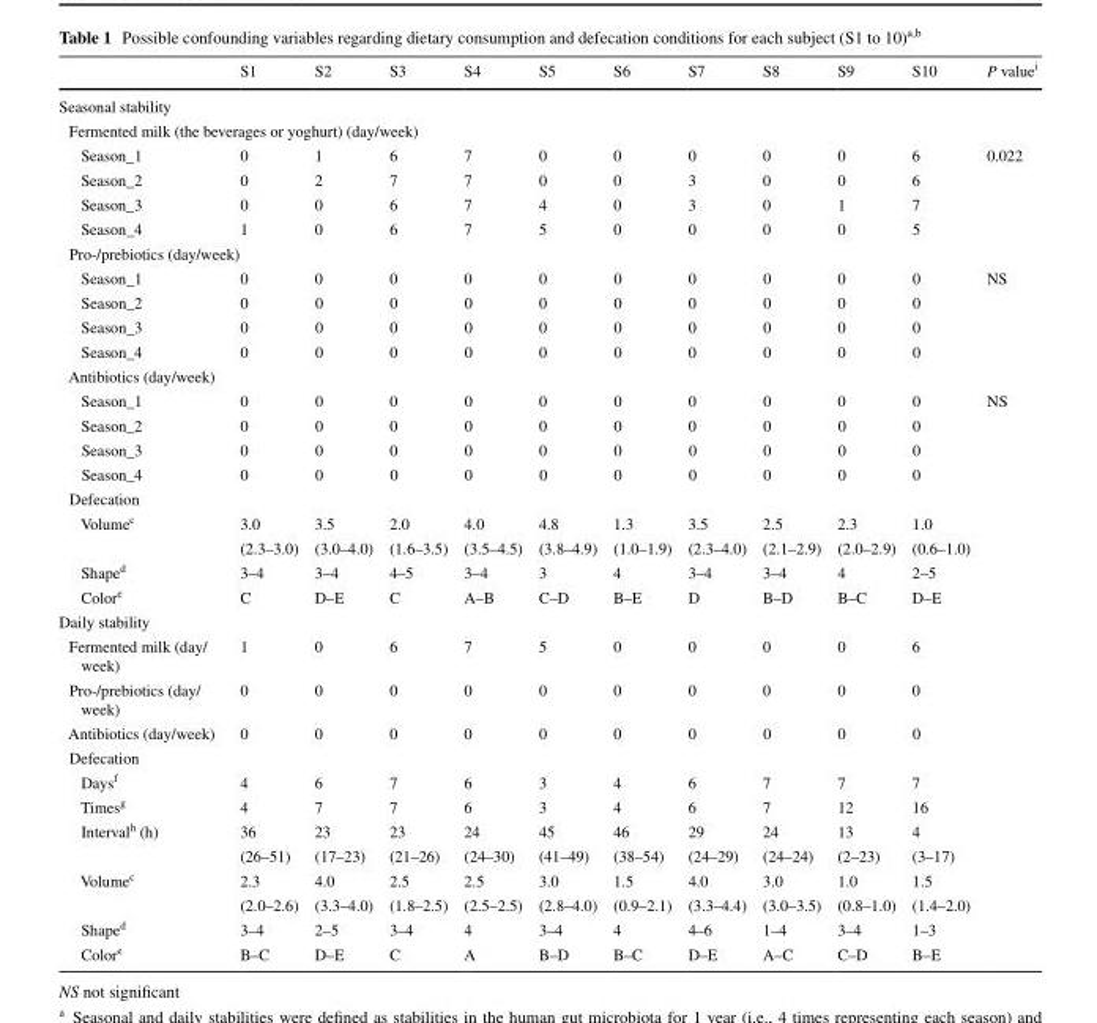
<table><thead><tr><td></td><td>S1</td><td>S2</td><td>S3</td><td>S4</td><td>S5</td><td>S6</td><td>S7</td><td>S8</td><td>S9</td><td>S10</td><td>P value<sup>i</sup></td></tr></thead><tbody><tr><td colspan="12">Seasonal stability</td></tr><tr><td colspan="12">Fermented milk (the beverages or yoghurt) (day/week)</td></tr><tr><td>Season_1</td><td>0</td><td>1</td><td>6</td><td>7</td><td>0</td><td>0</td><td>0</td><td>0</td><td>0</td><td>6</td><td>0.022</td></tr><tr><td>Season_2</td><td>0</td><td>2</td><td>7</td><td>7</td><td>0</td><td>0</td><td>3</td><td>0</td><td>0</td><td>6</td><td></td></tr><tr><td>Season_3</td><td>0</td><td>0</td><td>6</td><td>7</td><td>4</td><td>0</td><td>3</td><td>0</td><td>1</td><td>7</td><td></td></tr><tr><td>Season_4</td><td>1</td><td>0</td><td>6</td><td>7</td><td>5</td><td>0</td><td>0</td><td>0</td><td>0</td><td>5</td><td></td></tr><tr><td colspan="12">Pro-/prebiotics (day/week)</td></tr><tr><td>Season_1</td><td>0</td><td>0</td><td>0</td><td>0</td><td>0</td><td>0</td><td>0</td><td>0</td><td>0</td><td>0</td><td>NS</td></tr><tr><td>Season_2</td><td>0</td><td>0</td><td>0</td><td>0</td><td>0</td><td>0</td><td>0</td><td>0</td><td>0</td><td>0</td><td></td></tr><tr><td>Season_3</td><td>0</td><td>0</td><td>0</td><td>0</td><td>0</td><td>0</td><td>0</td><td>0</td><td>0</td><td>0</td><td></td></tr><tr><td>Season_4</td><td>0</td><td>0</td><td>0</td><td>0</td><td>0</td><td>0</td><td>0</td><td>0</td><td>0</td><td>0</td><td></td></tr><tr><td colspan="12">Antibiotics (day/week)</td></tr><tr><td>Season_1</td><td>0</td><td>0</td><td>0</td><td>0</td><td>0</td><td>0</td><td>0</td><td>0</td><td>0</td><td>0</td><td>NS</td></tr><tr><td>Season_2</td><td>0</td><td>0</td><td>0</td><td>0</td><td>0</td><td>0</td><td>0</td><td>0</td><td>0</td><td>0</td><td></td></tr><tr><td>Season_3</td><td>0</td><td>0</td><td>0</td><td>0</td><td>0</td><td>0</td><td>0</td><td>0</td><td>0</td><td>0</td><td></td></tr><tr><td>Season_4</td><td>0</td><td>0</td><td>0</td><td>0</td><td>0</td><td>0</td><td>0</td><td>0</td><td>0</td><td>0</td><td></td></tr><tr><td colspan="12">Defecation</td></tr><tr><td rowspan="2">Volume<sup>c</sup></td><td>3.0</td><td>3.5</td><td>2.0</td><td>4.0</td><td>4.8</td><td>1.3</td><td>3.5</td><td>2.5</td><td>2.3</td><td>1.0</td><td></td></tr><tr><td>(2.3–3.0)</td><td>(3.0–4.0)</td><td>(1.6–3.5)</td><td>(3.5–4.5)</td><td>(3.8–4.9)</td><td>(1.0–1.9)</td><td>(2.3–4.0)</td><td>(2.1–2.9)</td><td>(2.0–2.9)</td><td>(0.6–1.0)</td><td></td></tr><tr><td>Shape<sup>d</sup></td><td>3–4</td><td>3–4</td><td>4–5</td><td>3–4</td><td>3</td><td>4</td><td>3–4</td><td>3–4</td><td>4</td><td>2–5</td><td></td></tr><tr><td>Color<sup>e</sup></td><td>C</td><td>D–E</td><td>C</td><td>A–B</td><td>C–D</td><td>B–E</td><td>D</td><td>B–D</td><td>B–C</td><td>D–E</td><td></td></tr><tr><td colspan="12">Daily stability</td></tr><tr><td>Fermented milk (day/ week)</td><td>1</td><td>0</td><td>6</td><td>7</td><td>5</td><td>0</td><td>0</td><td>0</td><td>0</td><td>6</td><td></td></tr><tr><td>Pro-/prebiotics (day/ week)</td><td>0</td><td>0</td><td>0</td><td>0</td><td>0</td><td>0</td><td>0</td><td>0</td><td>0</td><td>0</td><td></td></tr><tr><td>Antibiotics (day/week)</td><td>0</td><td>0</td><td>0</td><td>0</td><td>0</td><td>0</td><td>0</td><td>0</td><td>0</td><td>0</td><td></td></tr><tr><td colspan="12">Defecation</td></tr><tr><td>Days<sup>f</sup></td><td>4</td><td>6</td><td>7</td><td>6</td><td>3</td><td>4</td><td>6</td><td>7</td><td>7</td><td>7</td><td></td></tr><tr><td>Times<sup>g</sup></td><td>4</td><td>7</td><td>7</td><td>6</td><td>3</td><td>4</td><td>6</td><td>7</td><td>12</td><td>16</td><td></td></tr><tr><td rowspan="2">Interval<sup>h</sup> (h)</td><td>36</td><td>23</td><td>23</td><td>24</td><td>45</td><td>46</td><td>29</td><td>24</td><td>13</td><td>4</td><td></td></tr><tr><td>(26–51)</td><td>(17–23)</td><td>(21–26)</td><td>(24–30)</td><td>(41–49)</td><td>(38–54)</td><td>(24–29)</td><td>(24–24)</td><td>(2–23)</td><td>(3–17)</td><td></td></tr><tr><td rowspan="2">Volume<sup>c</sup></td><td>2.3</td><td>4.0</td><td>2.5</td><td>2.5</td><td>3.0</td><td>1.5</td><td>4.0</td><td>3.0</td><td>1.0</td><td>1.5</td><td></td></tr><tr><td>(2.0–2.6)</td><td>(3.3–4.0)</td><td>(1.8–2.5)</td><td>(2.5–2.5)</td><td>(2.8–4.0)</td><td>(0.9–2.1)</td><td>(3.3–4.4)</td><td>(3.0–3.5)</td><td>(0.8–1.0)</td><td>(1.4–2.0)</td><td></td></tr><tr><td>Shape<sup>d</sup></td><td>3–4</td><td>2–5</td><td>3–4</td><td>4</td><td>3–4</td><td>4</td><td>4–6</td><td>1–4</td><td>3–4</td><td>1–3</td><td></td></tr><tr><td>Color<sup>e</sup></td><td>B–C</td><td>D–E</td><td>C</td><td>A</td><td>B–D</td><td>B–C</td><td>D–E</td><td>A–C</td><td>C–D</td><td>B–E</td><td></td></tr></tbody></table>